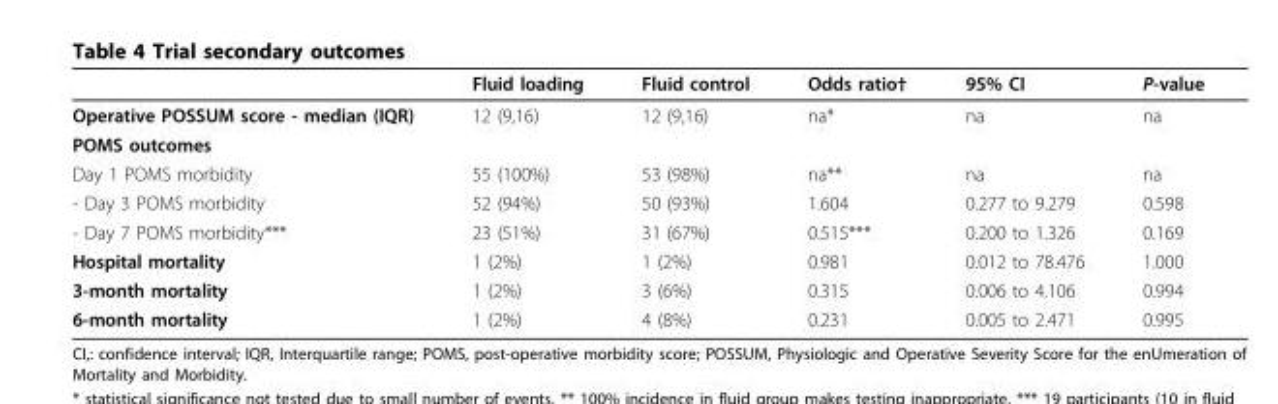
<table><thead><tr><td></td><td>Fluid loading</td><td>Fluid control</td><td>Odds ratio†</td><td>95% CI</td><td>P-value</td></tr></thead><tbody><tr><td>Operative POSSUM score - median (IQR)</td><td>12 (9,16)</td><td>12 (9,16)</td><td>na*</td><td>na</td><td>na</td></tr><tr><td colspan="6">POMS outcomes</td></tr><tr><td>Day 1 POMS morbidity</td><td>55 (100%)</td><td>53 (98%)</td><td>na**</td><td>na</td><td>na</td></tr><tr><td>- Day 3 POMS morbidity</td><td>52 (94%)</td><td>50 (93%)</td><td>1.604</td><td>0.277 to 9.279</td><td>0.598</td></tr><tr><td>- Day 7 POMS morbidity***</td><td>23 (51%)</td><td>31 (67%)</td><td>0.515***</td><td>0.200 to 1.326</td><td>0.169</td></tr><tr><td>Hospital mortality</td><td>1 (2%)</td><td>1 (2%)</td><td>0.981</td><td>0.012 to 78.476</td><td>1.000</td></tr><tr><td>3-month mortality</td><td>1 (2%)</td><td>3 (6%)</td><td>0.315</td><td>0.006 to 4.106</td><td>0.994</td></tr><tr><td>6-month mortality</td><td>1 (2%)</td><td>4 (8%)</td><td>0.231</td><td>0.005 to 2.471</td><td>0.995</td></tr></tbody></table>